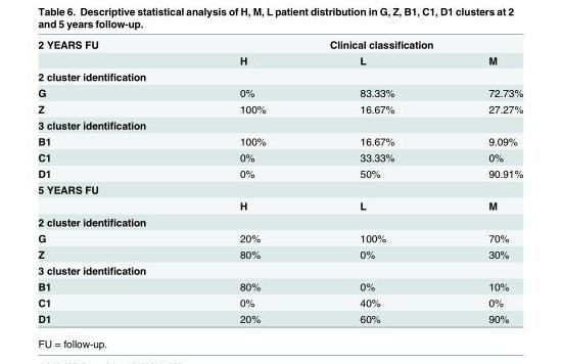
<table><tbody><tr><td rowspan="2">2 YEARS FU</td><td colspan="3">Clinical classification</td></tr><tr><td>H</td><td>L</td><td>M</td></tr><tr><td colspan="4">2 cluster identification</td></tr><tr><td>G</td><td>0%</td><td>83.33%</td><td>72.73%</td></tr><tr><td>Z</td><td>100%</td><td>16.67%</td><td>27.27%</td></tr><tr><td colspan="4">3 cluster identification</td></tr><tr><td>B1</td><td>100%</td><td>16.67%</td><td>9.09%</td></tr><tr><td>C1</td><td>0%</td><td>33.33%</td><td>0%</td></tr><tr><td>D1</td><td>0%</td><td>50%</td><td>90.91%</td></tr><tr><td colspan="4">5 YEARS FU</td></tr><tr><td></td><td>H</td><td>L</td><td>M</td></tr><tr><td colspan="4">2 cluster identification</td></tr><tr><td>G</td><td>20%</td><td>100%</td><td>70%</td></tr><tr><td>Z</td><td>80%</td><td>0%</td><td>30%</td></tr><tr><td colspan="4">3 cluster identification</td></tr><tr><td>B1</td><td>80%</td><td>0%</td><td>10%</td></tr><tr><td>C1</td><td>0%</td><td>40%</td><td>0%</td></tr><tr><td>D1</td><td>20%</td><td>60%</td><td>90%</td></tr></tbody></table>